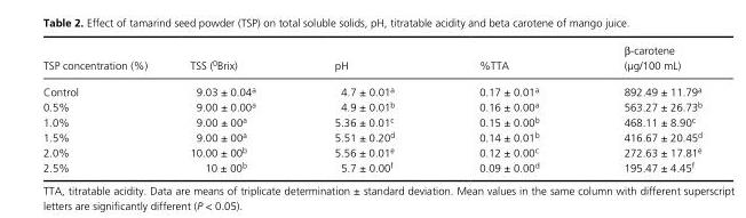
<table><thead><tr><td>TSP concentration (%)</td><td>TSS (<sup>0</sup>Brix)</td><td>pH</td><td>%TTA</td><td>β- carotene (µg/100 mL)</td></tr></thead><tbody><tr><td>Control</td><td>9.03 ± 0.04<sup>a</sup></td><td>4.7 ± 0.01<sup>a</sup></td><td>0.17 ± 0.01<sup>a</sup></td><td>892.49 ± 11.79<sup>a</sup></td></tr><tr><td>0.5%</td><td>9.00 ± 0.00<sup>a</sup></td><td>4.9 ± 0.01<sup>b</sup></td><td>0.16 ± 0.00<sup>a</sup></td><td>563.27 ± 26.73<sup>b</sup></td></tr><tr><td>1.0%</td><td>9.00 ± 00<sup>a</sup></td><td>5.36 ± 0.01<sup>c</sup></td><td>0.15 ± 0.00<sup>b</sup></td><td>468.11 ± 8.90<sup>c</sup></td></tr><tr><td>1.5%</td><td>9.00 ± 00<sup>a</sup></td><td>5.51 ± 0.20<sup>d</sup></td><td>0.14 ± 0.01<sup>b</sup></td><td>416.67 ± 20.45<sup>d</sup></td></tr><tr><td>2.0%</td><td>10.00 ± 00<sup>b</sup></td><td>5.56 ± 0.01<sup>e</sup></td><td>0.12 ± 0.00<sup>c</sup></td><td>272.63 ± 17.81<sup>e</sup></td></tr><tr><td>2.5%</td><td>10 ± 00<sup>b</sup></td><td>5.7 ± 0.00<sup>f</sup></td><td>0.09 ± 0.00<sup>d</sup></td><td>195.47 ± 4.45<sup>f</sup></td></tr></tbody></table>